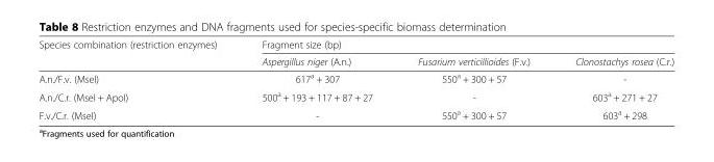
<table><thead><tr><td rowspan="2">Species combination (restriction enzymes)</td><td colspan="3">Fragment size (bp)</td></tr><tr><td>Aspergillus niger (A.n.)</td><td>Fusarium verticillioides (F.v.)</td><td>Clonostachys rosea (C.r.)</td></tr></thead><tbody><tr><td>A.n./F.v. (MseI)</td><td>617<sup>a</sup> + 307</td><td>550<sup>a</sup> + 300 + 57</td><td>-</td></tr><tr><td>A.n./C.r. (MseI + ApoI)</td><td>500<sup>a</sup> + 193 + 117 + 87 + 27</td><td>-</td><td>603<sup>a</sup> + 271 + 27</td></tr><tr><td>F.v./C.r. (MseI)</td><td>-</td><td>550<sup>a</sup> + 300 + 57</td><td>603<sup>a</sup> + 298</td></tr></tbody></table>